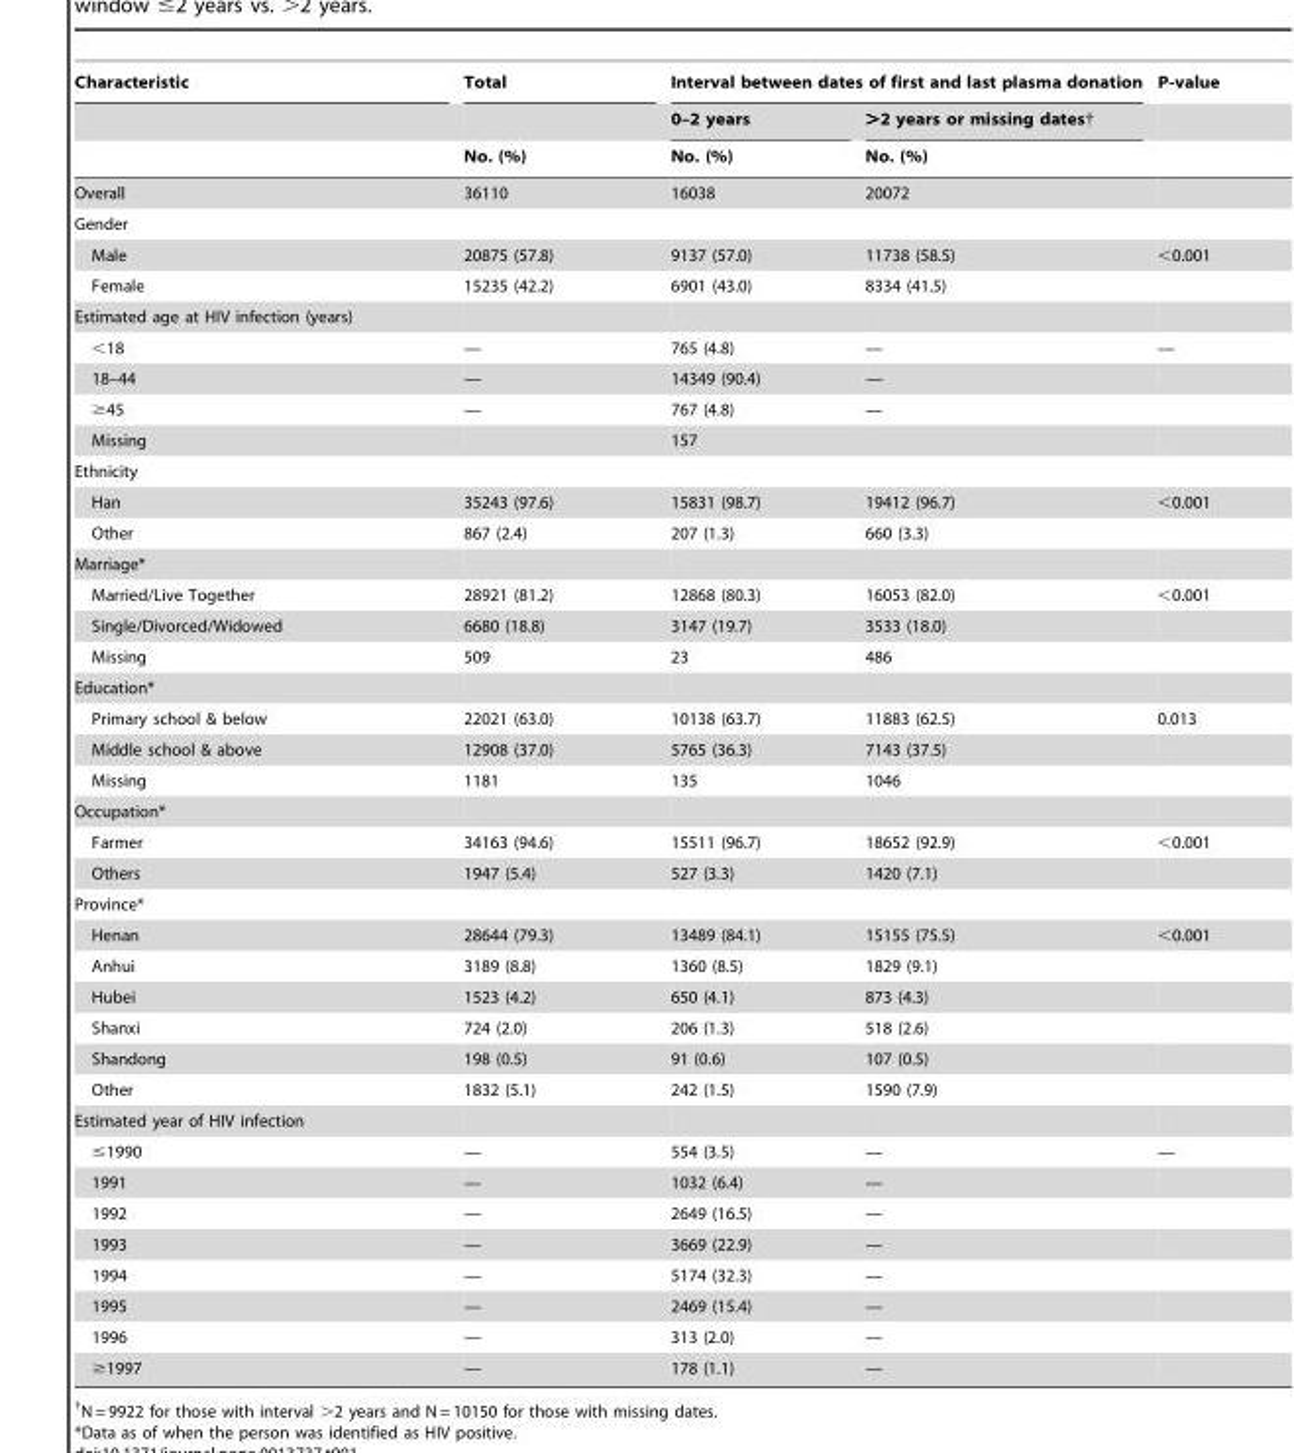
<table><thead><tr><td rowspan="3">Characteristic</td><td rowspan="3">Total No. (%)</td><td colspan="2">Interval between dates of first and last plasma donation</td><td rowspan="3">P-value</td></tr><tr><td rowspan="2">0–2 years No. (%)</td><td rowspan="2">&gt;2 years or missing dates† No. (%)</td></tr><tr></tr></thead><tbody><tr><td>Overall</td><td>36110</td><td>16038</td><td>20072</td><td></td></tr><tr><td colspan="5">Gender</td></tr><tr><td>Male</td><td>20875 (57.8)</td><td>9137 (57.0)</td><td>11738 (58.5)</td><td>&lt;0.001</td></tr><tr><td>Female</td><td>15235 (42.2)</td><td>6901 (43.0)</td><td>8334 (41.5)</td><td></td></tr><tr><td colspan="5">Estimated age at HIV infection (years)</td></tr><tr><td>&lt;18</td><td>—</td><td>765 (4.8)</td><td>—</td><td>—</td></tr><tr><td>18–44</td><td>—</td><td>14349 (90.4)</td><td>—</td><td></td></tr><tr><td>≥45</td><td>—</td><td>767 (4.8)</td><td>—</td><td></td></tr><tr><td>Missing</td><td></td><td>157</td><td></td><td></td></tr><tr><td colspan="5">Ethnicity</td></tr><tr><td>Han</td><td>35243 (97.6)</td><td>15831 (98.7)</td><td>19412 (96.7)</td><td>&lt;0.001</td></tr><tr><td>Other</td><td>867 (2.4)</td><td>207 (1.3)</td><td>660 (3.3)</td><td></td></tr><tr><td colspan="5">Marriage*</td></tr><tr><td>Married/Live Together</td><td>28921 (81.2)</td><td>12868 (80.3)</td><td>16053 (82.0)</td><td>&lt;0.001</td></tr><tr><td>Single/Divorced/Widowed</td><td>6680 (18.8)</td><td>3147 (19.7)</td><td>3533 (18.0)</td><td></td></tr><tr><td>Missing</td><td>509</td><td>23</td><td>486</td><td></td></tr><tr><td colspan="5">Education*</td></tr><tr><td>Primary school &amp; below</td><td>22021 (63.0)</td><td>10138 (63.7)</td><td>11883 (62.5)</td><td>0.013</td></tr><tr><td>Middle school &amp; above</td><td>12908 (37.0)</td><td>5765 (36.3)</td><td>7143 (37.5)</td><td></td></tr><tr><td>Missing</td><td>1181</td><td>135</td><td>1046</td><td></td></tr><tr><td colspan="5">Occupation*</td></tr><tr><td>Farmer</td><td>34163 (94.6)</td><td>15511 (96.7)</td><td>18652 (92.9)</td><td>&lt;0.001</td></tr><tr><td>Others</td><td>1947 (5.4)</td><td>527 (3.3)</td><td>1420 (7.1)</td><td></td></tr><tr><td colspan="5">Province*</td></tr><tr><td>Henan</td><td>28644 (79.3)</td><td>13489 (84.1)</td><td>15155 (75.5)</td><td>&lt;0.001</td></tr><tr><td>Anhui</td><td>3189 (8.8)</td><td>1360 (8.5)</td><td>1829 (9.1)</td><td></td></tr><tr><td>Hubei</td><td>1523 (4.2)</td><td>650 (4.1)</td><td>873 (4.3)</td><td></td></tr><tr><td>Shanxi</td><td>724 (2.0)</td><td>206 (1.3)</td><td>518 (2.6)</td><td></td></tr><tr><td>Shandong</td><td>198 (0.5)</td><td>91 (0.6)</td><td>107 (0.5)</td><td></td></tr><tr><td>Other</td><td>1832 (5.1)</td><td>242 (1.5)</td><td>1590 (7.9)</td><td></td></tr><tr><td colspan="5">Estimated year of HIV infection</td></tr><tr><td>≤1990</td><td>—</td><td>554 (3.5)</td><td>—</td><td>—</td></tr><tr><td>1991</td><td>—</td><td>1032 (6.4)</td><td>—</td><td></td></tr><tr><td>1992</td><td>—</td><td>2649 (16.5)</td><td>—</td><td></td></tr><tr><td>1993</td><td>—</td><td>3669 (22.9)</td><td>—</td><td></td></tr><tr><td>1994</td><td>—</td><td>5174 (32.3)</td><td>—</td><td></td></tr><tr><td>1995</td><td>—</td><td>2469 (15.4)</td><td>—</td><td></td></tr><tr><td>1996</td><td>—</td><td>313 (2.0)</td><td>—</td><td></td></tr><tr><td>≥1997</td><td>—</td><td>178 (1.1)</td><td>—</td><td></td></tr></tbody></table>